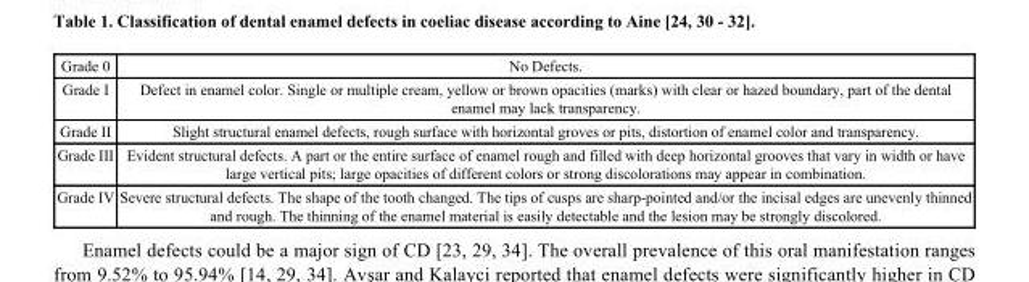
<table><thead><tr><td>Grade 0</td><td>No Defects.</td></tr></thead><tbody><tr><td>Grade I</td><td>Defect in enamel color. Single or multiple cream, yellow or brown opacities (marks) with clear or hazed boundary, part of the dental enamel may lack transparency.</td></tr><tr><td>Grade II</td><td>Slight structural enamel defects, rough surface with horizontal groves or pits, distortion of enamel color and transparency.</td></tr><tr><td>Grade III</td><td>Evident structural defects. A part or the entire surface of enamel rough and filled with deep horizontal grooves that vary in width or have large vertical pits; large opacities of different colors or strong discolorations may appear in combination.</td></tr><tr><td>Grade IV</td><td>Severe structural defects. The shape of the tooth changed. The tips of cusps are sharp-pointed and/or the incisal edges are unevenly thinned and rough. The thinning of the enamel material is easily detectable and the lesion may be strongly discolored.</td></tr></tbody></table>